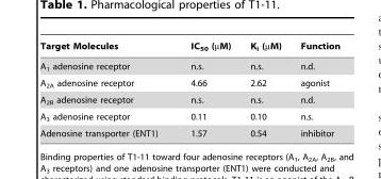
<table><thead><tr><td>Target Molecules</td><td>IC<sub>50</sub> (µM)</td><td>K<sub>i</sub> (µM)</td><td>Function</td></tr></thead><tbody><tr><td>A<sub>1</sub> adenosine receptor</td><td>n.s.</td><td>n.s.</td><td>n.d.</td></tr><tr><td>A<sub>2A</sub> adenosine receptor</td><td>4.66</td><td>2.62</td><td>agonist</td></tr><tr><td>A<sub>2B</sub> adenosine receptor</td><td>n.s.</td><td>n.s.</td><td>n.d.</td></tr><tr><td>A<sub>3</sub> adenosine receptor</td><td>0.11</td><td>0.10</td><td>n.s.</td></tr><tr><td>Adenosine transporter (ENT1)</td><td>1.57</td><td>0.54</td><td>inhibitor</td></tr></tbody></table>